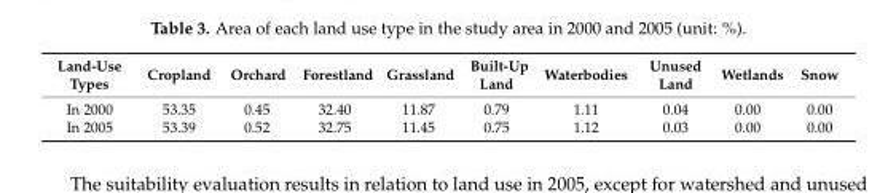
<table><thead><tr><td>Land-Use Types</td><td>Cropland</td><td>Orchard</td><td>Forestland</td><td>Grassland</td><td>Built-Up Land</td><td>Waterbodies</td><td>Unused Land</td><td>Wetlands</td><td>Snow</td></tr></thead><tbody><tr><td>In 2000</td><td>53.35</td><td>0.45</td><td>32.40</td><td>11.87</td><td>0.79</td><td>1.11</td><td>0.04</td><td>0.00</td><td>0.00</td></tr><tr><td>In 2005</td><td>53.39</td><td>0.52</td><td>32.75</td><td>11.45</td><td>0.75</td><td>1.12</td><td>0.03</td><td>0.00</td><td>0.00</td></tr></tbody></table>